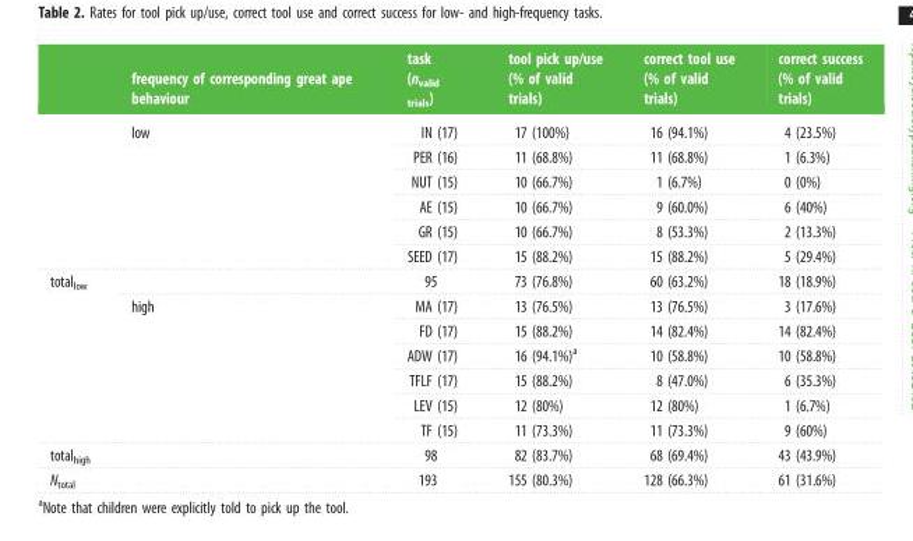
<table><thead><tr><td></td><td>frequency of corresponding great ape behaviour</td><td>task (n<sub>valid trials</sub>)</td><td>tool pick up/use (% of valid trials)</td><td>correct tool use (% of valid trials)</td><td>correct success (% of valid trials)</td></tr></thead><tbody><tr><td></td><td rowspan="6">low</td><td>IN (17)</td><td>17 (100%)</td><td>16 (94.1%)</td><td>4 (23.5%)</td></tr><tr><td></td><td>PER (16)</td><td>11 (68.8%)</td><td>11 (68.8%)</td><td>1 (6.3%)</td></tr><tr><td></td><td>NUT (15)</td><td>10 (66.7%)</td><td>1 (6.7%)</td><td>0 (0%)</td></tr><tr><td></td><td>AE (15)</td><td>10 (66.7%)</td><td>9 (60.0%)</td><td>6 (40%)</td></tr><tr><td></td><td>GR (15)</td><td>10 (66.7%)</td><td>8 (53.3%)</td><td>2 (13.3%)</td></tr><tr><td></td><td>SEED (17)</td><td>15 (88.2%)</td><td>15 (88.2%)</td><td>5 (29.4%)</td></tr><tr><td rowspan="7">total<sub>low</sub></td><td></td><td>95</td><td>73 (76.8%)</td><td>60 (63.2%)</td><td>18 (18.9%)</td></tr><tr><td rowspan="6">high</td><td>MA (17)</td><td>13 (76.5%)</td><td>13 (76.5%)</td><td>3 (17.6%)</td></tr><tr><td>FD (17)</td><td>15 (88.2%)</td><td>14 (82.4%)</td><td>14 (82.4%)</td></tr><tr><td>ADW (17)</td><td>16 (94.1%)<sup>a</sup></td><td>10 (58.8%)</td><td>10 (58.8%)</td></tr><tr><td>TFLF (17)</td><td>15 (88.2%)</td><td>8 (47.0%)</td><td>6 (35.3%)</td></tr><tr><td>LEV (15)</td><td>12 (80%)</td><td>12 (80%)</td><td>1 (6.7%)</td></tr><tr><td>TF (15)</td><td>11 (73.3%)</td><td>11 (73.3%)</td><td>9 (60%)</td></tr><tr><td>total<sub>high</sub></td><td></td><td>98</td><td>82 (83.7%)</td><td>68 (69.4%)</td><td>43 (43.9%)</td></tr><tr><td>N<sub>total</sub></td><td></td><td>193</td><td>155 (80.3%)</td><td>128 (66.3%)</td><td>61 (31.6%)</td></tr></tbody></table>